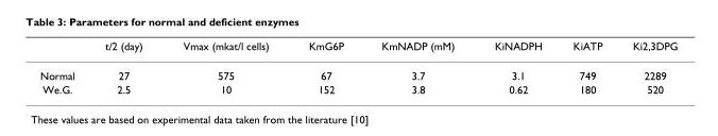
<table><thead><tr><td></td><td>t/2 (day)</td><td>Vmax (mkat/l cells)</td><td>KmG6P</td><td>KmNADP (mM)</td><td>KiNADPH</td><td>KiATP</td><td>Ki2,3DPG</td></tr></thead><tbody><tr><td>Normal</td><td>27</td><td>575</td><td>67</td><td>3.7</td><td>3.1</td><td>749</td><td>2289</td></tr><tr><td>We.G.</td><td>2.5</td><td>10</td><td>152</td><td>3.8</td><td>0.62</td><td>180</td><td>520</td></tr></tbody></table>